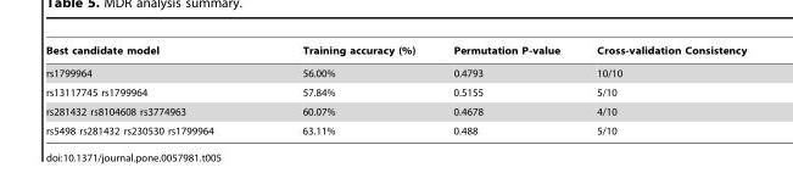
<table><thead><tr><td>Best candidate model</td><td>Training accuracy (%)</td><td>Permutation P-value</td><td>Cross-validation Consistency</td></tr></thead><tbody><tr><td>rs1799964</td><td>56.00%</td><td>0.4793</td><td>10/10</td></tr><tr><td>rs13117745 rs1799964</td><td>57.84%</td><td>0.5155</td><td>5/10</td></tr><tr><td>rs281432 rs8104608 rs3774963</td><td>60.07%</td><td>0.4678</td><td>4/10</td></tr><tr><td>rs5498 rs281432 rs230530 rs1799964</td><td>63.11%</td><td>0.488</td><td>5/10</td></tr></tbody></table>